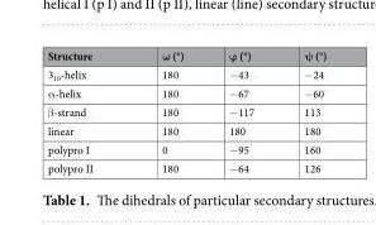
<table><thead><tr><td>Structure</td><td>ω (°)</td><td>ϕ (°)</td><td>ψ (°)</td></tr></thead><tbody><tr><td>3<sub>10</sub>-helix</td><td>180</td><td>−43</td><td>−24</td></tr><tr><td>α-helix</td><td>180</td><td>−67</td><td>−60</td></tr><tr><td>β-strand</td><td>180</td><td>−117</td><td>113</td></tr><tr><td>linear</td><td>180</td><td>180</td><td>180</td></tr><tr><td>polypro I</td><td>0</td><td>−95</td><td>160</td></tr><tr><td>polypro II</td><td>180</td><td>−64</td><td>126</td></tr></tbody></table>